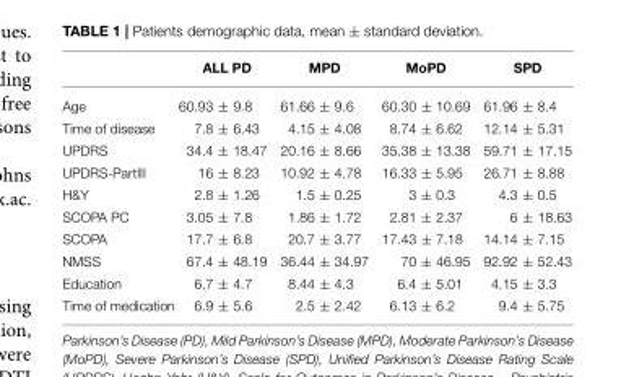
<table><thead><tr><td></td><td>ALL PD</td><td>MPD</td><td>MoPD</td><td>SPD</td></tr></thead><tbody><tr><td>Age</td><td>60.93 ± 9.8</td><td>61.66 ± 9.6</td><td>60.30 ± 10.69</td><td>61.96 ± 8.4</td></tr><tr><td>Time of disease</td><td>7.8 ± 6.43</td><td>4.15 ± 4.08</td><td>8.74 ± 6.62</td><td>12.14 ± 5.31</td></tr><tr><td>UPDRS</td><td>34.4 ± 18.47</td><td>20.16 ± 8.66</td><td>35.38 ± 13.38</td><td>59.71 ± 17.15</td></tr><tr><td>UPDRS-PartIII</td><td>16 ± 8.23</td><td>10.92 ± 4.78</td><td>16.33 ± 5.95</td><td>26.71 ± 8.88</td></tr><tr><td>H&amp;Y</td><td>2.8 ± 1.26</td><td>1.5 ± 0.25</td><td>3 ± 0.3</td><td>4.3 ± 0.5</td></tr><tr><td>SCOPA PC</td><td>3.05 ± 7.8</td><td>1.86 ± 1.72</td><td>2.81 ± 2.37</td><td>6 ± 18.63</td></tr><tr><td>SCOPA</td><td>17.7 ± 6.8</td><td>20.7 ± 3.77</td><td>17.43 ± 7.18</td><td>14.14 ± 7.15</td></tr><tr><td>NMSS</td><td>67.4 ± 48.19</td><td>36.44 ± 34.97</td><td>70 ± 46.95</td><td>92.92 ± 52.43</td></tr><tr><td>Education</td><td>6.7 ± 4.7</td><td>8.44 ± 4.3</td><td>6.4 ± 5.01</td><td>4.15 ± 3.3</td></tr><tr><td>Time of medication</td><td>6.9 ± 5.6</td><td>2.5 ± 2.42</td><td>6.13 ± 6.2</td><td>9.4 ± 5.75</td></tr></tbody></table>